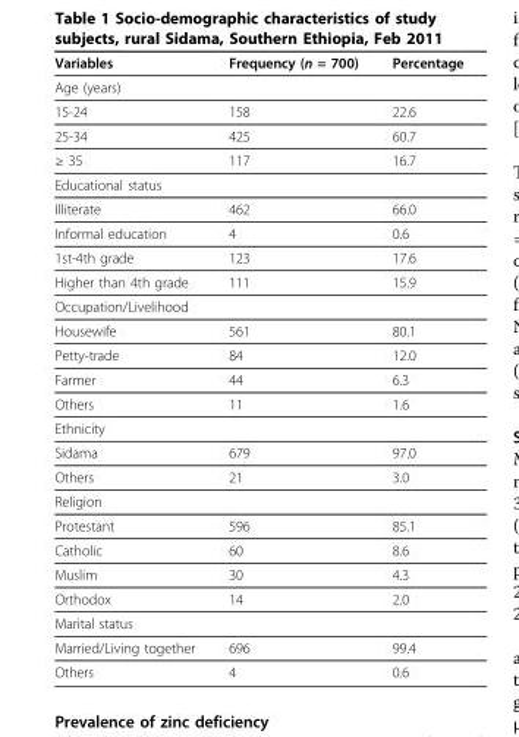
<table><thead><tr><td>Variables</td><td>Frequency (n = 700)</td><td>Percentage</td></tr></thead><tbody><tr><td colspan="3">Age (years)</td></tr><tr><td>15-24</td><td>158</td><td>22.6</td></tr><tr><td>25-34</td><td>425</td><td>60.7</td></tr><tr><td>≥ 35</td><td>117</td><td>16.7</td></tr><tr><td colspan="3">Educational status</td></tr><tr><td>Illiterate</td><td>462</td><td>66.0</td></tr><tr><td>Informal education</td><td>4</td><td>0.6</td></tr><tr><td>1st-4th grade</td><td>123</td><td>17.6</td></tr><tr><td>Higher than 4th grade</td><td>111</td><td>15.9</td></tr><tr><td colspan="3">Occupation/Livelihood</td></tr><tr><td>Housewife</td><td>561</td><td>80.1</td></tr><tr><td>Petty-trade</td><td>84</td><td>12.0</td></tr><tr><td>Farmer</td><td>44</td><td>6.3</td></tr><tr><td>Others</td><td>11</td><td>1.6</td></tr><tr><td colspan="3">Ethnicity</td></tr><tr><td>Sidama</td><td>679</td><td>97.0</td></tr><tr><td>Others</td><td>21</td><td>3.0</td></tr><tr><td colspan="3">Religion</td></tr><tr><td>Protestant</td><td>596</td><td>85.1</td></tr><tr><td>Catholic</td><td>60</td><td>8.6</td></tr><tr><td>Muslim</td><td>30</td><td>4.3</td></tr><tr><td>Orthodox</td><td>14</td><td>2.0</td></tr><tr><td colspan="3">Marital status</td></tr><tr><td>Married/Living together</td><td>696</td><td>99.4</td></tr><tr><td>Others</td><td>4</td><td>0.6</td></tr></tbody></table>